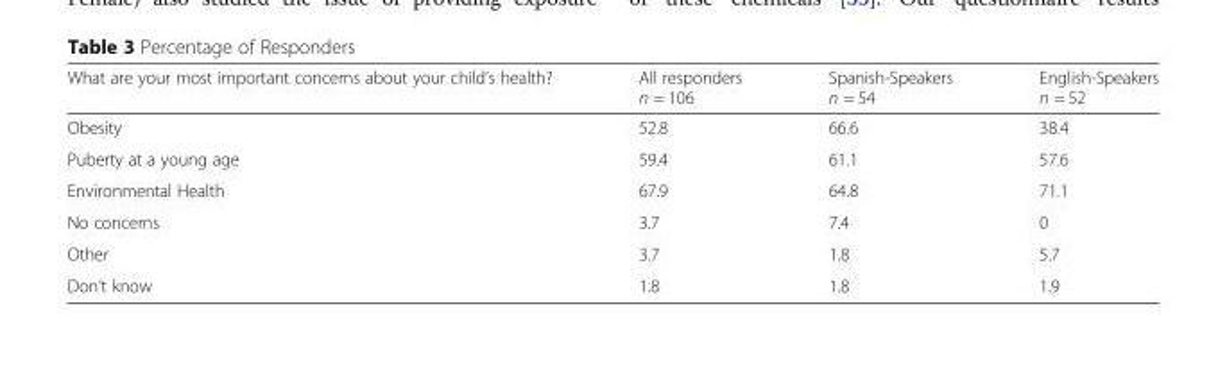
<table><thead><tr><td>What are your most important concerns about your child’s health?</td><td>All responders n = 106</td><td>Spanish-Speakers n = 54</td><td>English-Speakers n = 52</td></tr></thead><tbody><tr><td>Obesity</td><td>52.8</td><td>66.6</td><td>38.4</td></tr><tr><td>Puberty at a young age</td><td>59.4</td><td>61.1</td><td>57.6</td></tr><tr><td>Environmental Health</td><td>67.9</td><td>64.8</td><td>71.1</td></tr><tr><td>No concerns</td><td>3.7</td><td>7.4</td><td>0</td></tr><tr><td>Other</td><td>3.7</td><td>1.8</td><td>5.7</td></tr><tr><td>Don’t know</td><td>1.8</td><td>1.8</td><td>1.9</td></tr></tbody></table>